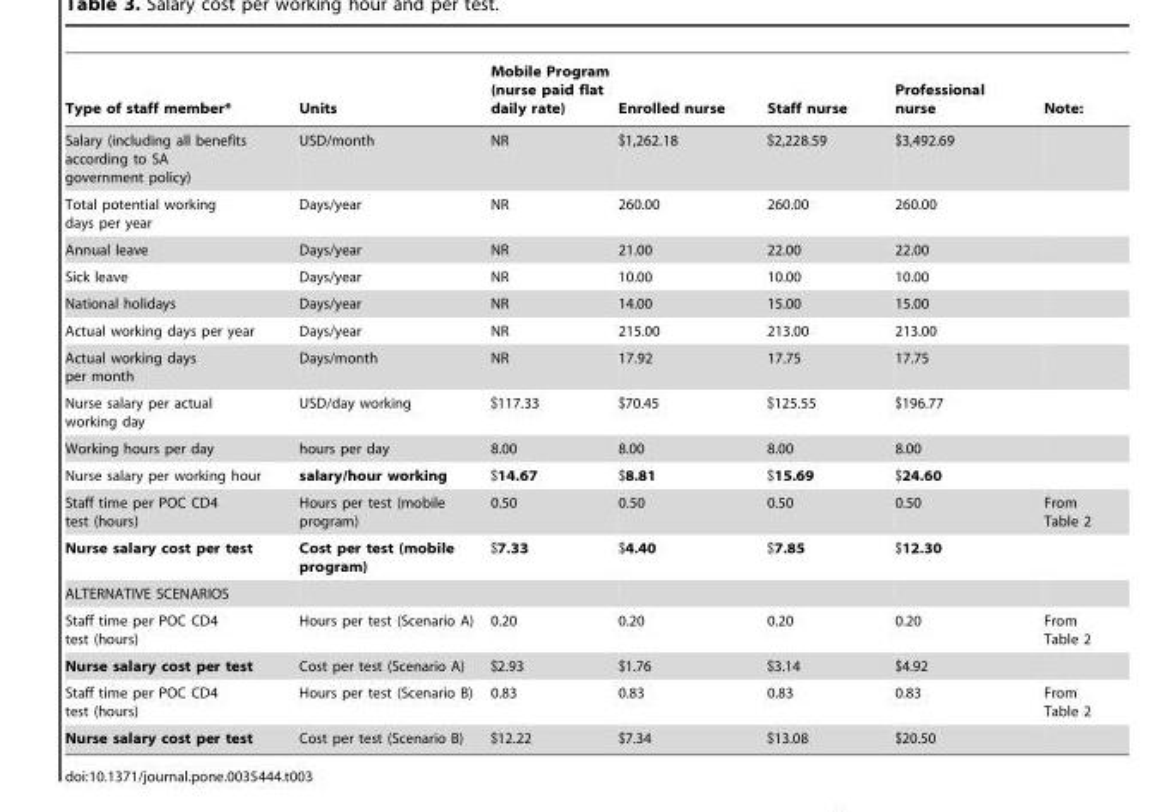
<table><thead><tr><td>Type of staff member*</td><td>Units</td><td>Mobile Program (nurse paid flat daily rate)</td><td>Enrolled nurse</td><td>Staff nurse</td><td>Professional nurse</td><td>Note:</td></tr></thead><tbody><tr><td>Salary (including all benefits according to SA government policy)</td><td>USD/month</td><td>NR</td><td>$1,262.18</td><td>$2,228.59</td><td>$3,492.69</td><td></td></tr><tr><td>Total potential working days per year</td><td>Days/year</td><td>NR</td><td>260.00</td><td>260.00</td><td>260.00</td><td></td></tr><tr><td>Annual leave</td><td>Days/year</td><td>NR</td><td>21.00</td><td>22.00</td><td>22.00</td><td></td></tr><tr><td>Sick leave</td><td>Days/year</td><td>NR</td><td>10.00</td><td>10.00</td><td>10.00</td><td></td></tr><tr><td>National holidays</td><td>Days/year</td><td>NR</td><td>14.00</td><td>15.00</td><td>15.00</td><td></td></tr><tr><td>Actual working days per year</td><td>Days/year</td><td>NR</td><td>215.00</td><td>213.00</td><td>213.00</td><td></td></tr><tr><td>Actual working days per month</td><td>Days/month</td><td>NR</td><td>17.92</td><td>17.75</td><td>17.75</td><td></td></tr><tr><td>Nurse salary per actual working day</td><td>USD/day working</td><td>$117.33</td><td>$70.45</td><td>$125.55</td><td>$196.77</td><td></td></tr><tr><td>Working hours per day</td><td>hours per day</td><td>8.00</td><td>8.00</td><td>8.00</td><td>8.00</td><td></td></tr><tr><td>Nurse salary per working hour</td><td>salary/hour working</td><td>$14.67</td><td>$8.81</td><td>$15.69</td><td>$24.60</td><td></td></tr><tr><td>Staff time per POC CD4 test (hours)</td><td>Hours per test (mobile program)</td><td>0.50</td><td>0.50</td><td>0.50</td><td>0.50</td><td>From Table 2</td></tr><tr><td>Nurse salary cost per test</td><td>Cost per test (mobile program)</td><td>$7.33</td><td>$4.40</td><td>$7.85</td><td>$12.30</td><td></td></tr><tr><td colspan="7">ALTERNATIVE SCENARIOS</td></tr><tr><td>Staff time per POC CD4 test (hours)</td><td>Hours per test (Scenario A)</td><td>0.20</td><td>0.20</td><td>0.20</td><td>0.20</td><td>From Table 2</td></tr><tr><td>Nurse salary cost per test</td><td>Cost per test (Scenario A)</td><td>$2.93</td><td>$1.76</td><td>$3.14</td><td>$4.92</td><td></td></tr><tr><td>Staff time per POC CD4 test (hours)</td><td>Hours per test (Scenario B)</td><td>0.83</td><td>0.83</td><td>0.83</td><td>0.83</td><td>From Table 2</td></tr><tr><td>Nurse salary cost per test</td><td>Cost per test (Scenario B)</td><td>$12.22</td><td>$7.34</td><td>$13.08</td><td>$20.50</td><td></td></tr></tbody></table>